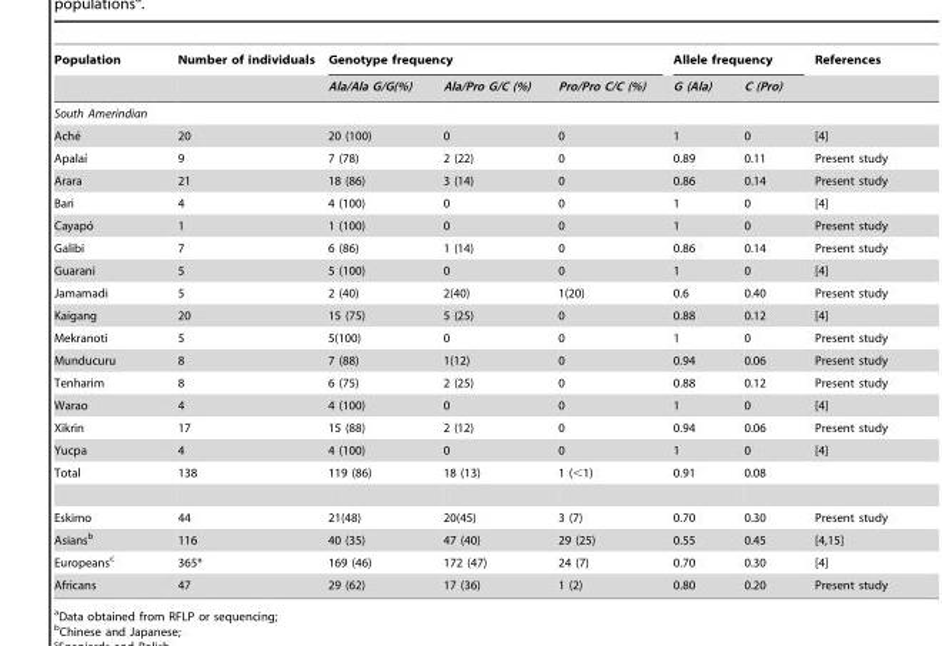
<table><thead><tr><td rowspan="2">Population</td><td rowspan="2">Number of individuals</td><td colspan="3">Genotype frequency</td><td colspan="2">Allele frequency</td><td rowspan="2">References</td></tr><tr><td>Ala/Ala G/G(%)</td><td>Ala/Pro G/C (%)</td><td>Pro/Pro C/C (%)</td><td>G (Ala)</td><td>C (Pro)</td></tr></thead><tbody><tr><td colspan="8">South Amerindian</td></tr><tr><td>Ache´</td><td>20</td><td>20 (100)</td><td>0</td><td>0</td><td>1</td><td>0</td><td>[4]</td></tr><tr><td>Apalaı´</td><td>9</td><td>7 (78)</td><td>2 (22)</td><td>0</td><td>0.89</td><td>0.11</td><td>Present study</td></tr><tr><td>Arara</td><td>21</td><td>18 (86)</td><td>3 (14)</td><td>0</td><td>0.86</td><td>0.14</td><td>Present study</td></tr><tr><td>Bari</td><td>4</td><td>4 (100)</td><td>0</td><td>0</td><td>1</td><td>0</td><td>[4]</td></tr><tr><td>Cayapo´</td><td>1</td><td>1 (100)</td><td>0</td><td>0</td><td>1</td><td>0</td><td>Present study</td></tr><tr><td>Galibi</td><td>7</td><td>6 (86)</td><td>1 (14)</td><td>0</td><td>0.86</td><td>0.14</td><td>Present study</td></tr><tr><td>Guarani</td><td>5</td><td>5 (100)</td><td>0</td><td>0</td><td>1</td><td>0</td><td>[4]</td></tr><tr><td>Jamamadi</td><td>5</td><td>2 (40)</td><td>2(40)</td><td>1(20)</td><td>0.6</td><td>0.40</td><td>Present study</td></tr><tr><td>Kaigang</td><td>20</td><td>15 (75)</td><td>5 (25)</td><td>0</td><td>0.88</td><td>0.12</td><td>[4]</td></tr><tr><td>Mekranoti</td><td>5</td><td>5(100)</td><td>0</td><td>0</td><td>1</td><td>0</td><td>Present study</td></tr><tr><td>Munducuru</td><td>8</td><td>7 (88)</td><td>1(12)</td><td>0</td><td>0.94</td><td>0.06</td><td>Present study</td></tr><tr><td>Tenharim</td><td>8</td><td>6 (75)</td><td>2 (25)</td><td>0</td><td>0.88</td><td>0.12</td><td>Present study</td></tr><tr><td>Warao</td><td>4</td><td>4 (100)</td><td>0</td><td>0</td><td>1</td><td>0</td><td>[4]</td></tr><tr><td>Xikrin</td><td>17</td><td>15 (88)</td><td>2 (12)</td><td>0</td><td>0.94</td><td>0.06</td><td>Present study</td></tr><tr><td>Yucpa</td><td>4</td><td>4 (100)</td><td>0</td><td>0</td><td>1</td><td>0</td><td>[4]</td></tr><tr><td>Total</td><td>138</td><td>119 (86)</td><td>18 (13)</td><td>1 (&lt;1)</td><td>0.91</td><td>0.08</td><td></td></tr><tr><td>Eskimo</td><td>44</td><td>21(48)</td><td>20(45)</td><td>3 (7)</td><td>0.70</td><td>0.30</td><td>Present study</td></tr><tr><td>Asians<sup>b</sup></td><td>116</td><td>40 (35)</td><td>47 (40)</td><td>29 (25)</td><td>0.55</td><td>0.45</td><td>[4,15]</td></tr><tr><td>Europeans<sup>c</sup></td><td>365*</td><td>169 (46)</td><td>172 (47)</td><td>24 (7)</td><td>0.70</td><td>0.30</td><td>[4]</td></tr><tr><td>Africans</td><td>47</td><td>29 (62)</td><td>17 (36)</td><td>1 (2)</td><td>0.80</td><td>0.20</td><td>Present study</td></tr></tbody></table>